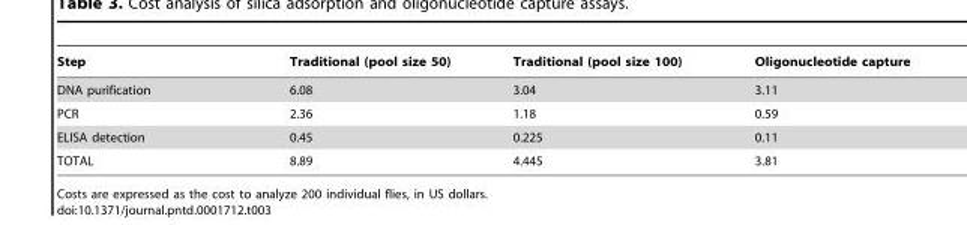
<table><thead><tr><td>Step</td><td>Traditional (pool size 50)</td><td>Traditional (pool size 100)</td><td>Oligonucleotide capture</td></tr></thead><tbody><tr><td>DNA purification</td><td>6.08</td><td>3.04</td><td>3.11</td></tr><tr><td>PCR</td><td>2.36</td><td>1.18</td><td>0.59</td></tr><tr><td>ELISA detection</td><td>0.45</td><td>0.225</td><td>0.11</td></tr><tr><td>TOTAL</td><td>8.89</td><td>4.445</td><td>3.81</td></tr></tbody></table>